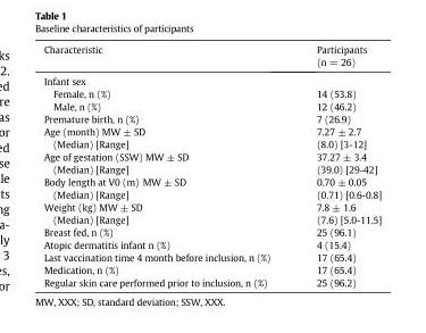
<table><thead><tr><td>Characteristic</td><td>Participants (n = 26)</td></tr></thead><tbody><tr><td colspan="2">Infant sex</td></tr><tr><td>Female, n (%)</td><td>14 (53.8)</td></tr><tr><td>Male, n (%)</td><td>12 (46.2)</td></tr><tr><td>Premature birth, n (%)</td><td>7 (26.9)</td></tr><tr><td>Age (month) MW ± SD (Median) [Range]</td><td>7.27 ± 2.7 (8.0) [3-12]</td></tr><tr><td>Age of gestation (SSW) MW ± SD (Median) [Range]</td><td>37.27 ± 3.4 (39.0) [29-42]</td></tr><tr><td>Body length at V0 (m) MW ± SD (Median) [Range]</td><td>0.70 ± 0.05 (0.71) [0.6-0.8]</td></tr><tr><td>Weight (kg) MW ± SD (Median) [Range]</td><td>7.8 ± 1.6 (7.6) [5.0-11.5]</td></tr><tr><td>Breast fed, n (%)</td><td>25 (96.1)</td></tr><tr><td>Atopic dermatitis infant n (%)</td><td>4 (15.4)</td></tr><tr><td>Last vaccination time 4 month before inclusion, n (%)</td><td>17 (65.4)</td></tr><tr><td>Medication, n (%)</td><td>17 (65.4)</td></tr><tr><td>Regular skin care performed prior to inclusion, n (%)</td><td>25 (96.2)</td></tr></tbody></table>